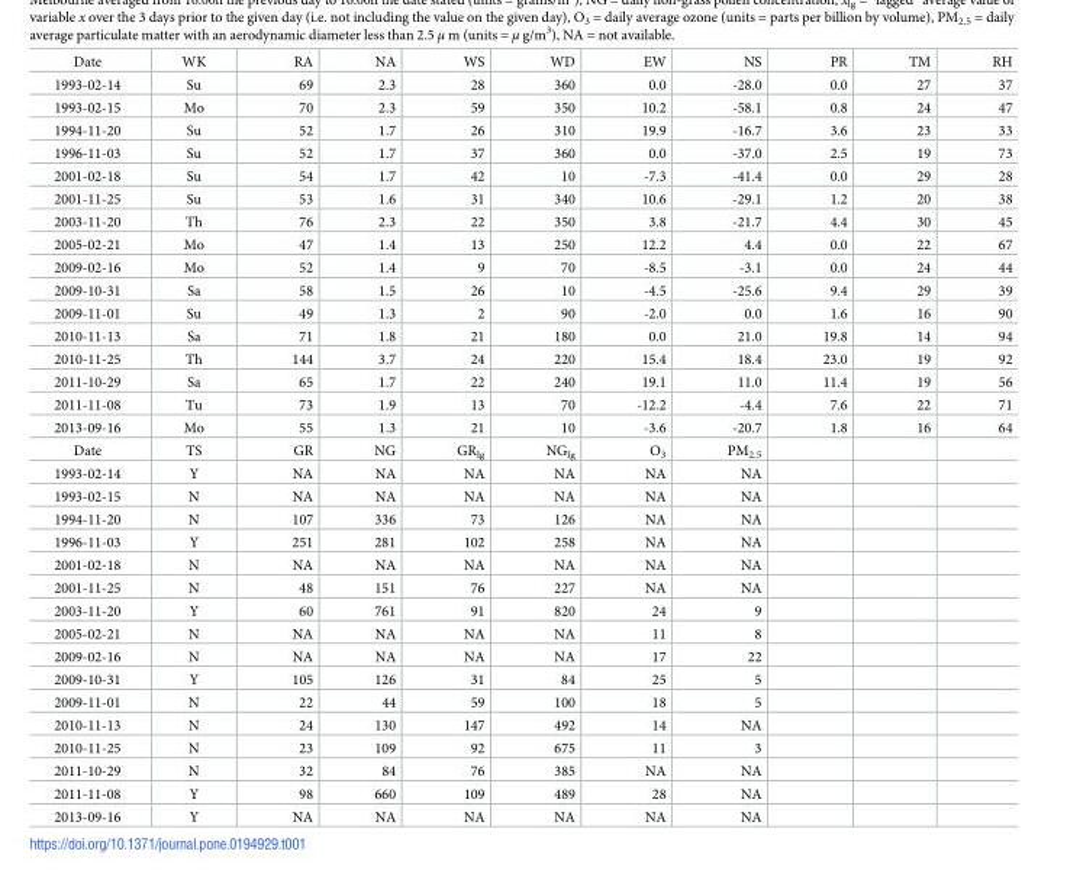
<table><tbody><tr><td>Date</td><td>WK</td><td>RA</td><td>NA</td><td>WS</td><td>WD</td><td>EW</td><td>NS</td><td>PR</td><td>TM</td><td>RH</td></tr><tr><td>1993-02-14</td><td>Su</td><td>69</td><td>2.3</td><td>28</td><td>360</td><td>0.0</td><td>-28.0</td><td>0.0</td><td>27</td><td>37</td></tr><tr><td>1993-02-15</td><td>Mo</td><td>70</td><td>2.3</td><td>59</td><td>350</td><td>10.2</td><td>-58.1</td><td>0.8</td><td>24</td><td>47</td></tr><tr><td>1994-11-20</td><td>Su</td><td>52</td><td>1.7</td><td>26</td><td>310</td><td>19.9</td><td>-16.7</td><td>3.6</td><td>23</td><td>33</td></tr><tr><td>1996-11-03</td><td>Su</td><td>52</td><td>1.7</td><td>37</td><td>360</td><td>0.0</td><td>-37.0</td><td>2.5</td><td>19</td><td>73</td></tr><tr><td>2001-02-18</td><td>Su</td><td>54</td><td>1.7</td><td>42</td><td>10</td><td>-7.3</td><td>-41.4</td><td>0.0</td><td>29</td><td>28</td></tr><tr><td>2001-11-25</td><td>Su</td><td>53</td><td>1.6</td><td>31</td><td>340</td><td>10.6</td><td>-29.1</td><td>1.2</td><td>20</td><td>38</td></tr><tr><td>2003-11-20</td><td>Th</td><td>76</td><td>2.3</td><td>22</td><td>350</td><td>3.8</td><td>-21.7</td><td>4.4</td><td>30</td><td>45</td></tr><tr><td>2005-02-21</td><td>Mo</td><td>47</td><td>1.4</td><td>13</td><td>250</td><td>12.2</td><td>4.4</td><td>0.0</td><td>22</td><td>67</td></tr><tr><td>2009-02-16</td><td>Mo</td><td>52</td><td>1.4</td><td>9</td><td>70</td><td>-8.5</td><td>-3.1</td><td>0.0</td><td>24</td><td>44</td></tr><tr><td>2009-10-31</td><td>Sa</td><td>58</td><td>1.5</td><td>26</td><td>10</td><td>-4.5</td><td>-25.6</td><td>9.4</td><td>29</td><td>39</td></tr><tr><td>2009-11-01</td><td>Su</td><td>49</td><td>1.3</td><td>2</td><td>90</td><td>-2.0</td><td>0.0</td><td>1.6</td><td>16</td><td>90</td></tr><tr><td>2010-11-13</td><td>Sa</td><td>71</td><td>1.8</td><td>21</td><td>180</td><td>0.0</td><td>21.0</td><td>19.8</td><td>14</td><td>94</td></tr><tr><td>2010-11-25</td><td>Th</td><td>144</td><td>3.7</td><td>24</td><td>220</td><td>15.4</td><td>18.4</td><td>23.0</td><td>19</td><td>92</td></tr><tr><td>2011-10-29</td><td>Sa</td><td>65</td><td>1.7</td><td>22</td><td>240</td><td>19.1</td><td>11.0</td><td>11.4</td><td>19</td><td>56</td></tr><tr><td>2011-11-08</td><td>Tu</td><td>73</td><td>1.9</td><td>13</td><td>70</td><td>-12.2</td><td>-4.4</td><td>7.6</td><td>22</td><td>71</td></tr><tr><td>2013-09-16</td><td>Mo</td><td>55</td><td>1.3</td><td>21</td><td>10</td><td>-3.6</td><td>-20.7</td><td>1.8</td><td>16</td><td>64</td></tr><tr><td>Date</td><td>TS</td><td>GR</td><td>NG</td><td>GR<sub>lg</sub></td><td>NG<sub>lg</sub></td><td>O<sub>3</sub></td><td>PM<sub>2.5</sub></td><td></td><td></td><td></td></tr><tr><td>1993-02-14</td><td>Y</td><td>NA</td><td>NA</td><td>NA</td><td>NA</td><td>NA</td><td>NA</td><td></td><td></td><td></td></tr><tr><td>1993-02-15</td><td>N</td><td>NA</td><td>NA</td><td>NA</td><td>NA</td><td>NA</td><td>NA</td><td></td><td></td><td></td></tr><tr><td>1994-11-20</td><td>N</td><td>107</td><td>336</td><td>73</td><td>126</td><td>NA</td><td>NA</td><td></td><td></td><td></td></tr><tr><td>1996-11-03</td><td>Y</td><td>251</td><td>281</td><td>102</td><td>258</td><td>NA</td><td>NA</td><td></td><td></td><td></td></tr><tr><td>2001-02-18</td><td>N</td><td>NA</td><td>NA</td><td>NA</td><td>NA</td><td>NA</td><td>NA</td><td></td><td></td><td></td></tr><tr><td>2001-11-25</td><td>N</td><td>48</td><td>151</td><td>76</td><td>227</td><td>NA</td><td>NA</td><td></td><td></td><td></td></tr><tr><td>2003-11-20</td><td>Y</td><td>60</td><td>761</td><td>91</td><td>820</td><td>24</td><td>9</td><td></td><td></td><td></td></tr><tr><td>2005-02-21</td><td>N</td><td>NA</td><td>NA</td><td>NA</td><td>NA</td><td>11</td><td>8</td><td></td><td></td><td></td></tr><tr><td>2009-02-16</td><td>N</td><td>NA</td><td>NA</td><td>NA</td><td>NA</td><td>17</td><td>22</td><td></td><td></td><td></td></tr><tr><td>2009-10-31</td><td>Y</td><td>105</td><td>126</td><td>31</td><td>84</td><td>25</td><td>5</td><td></td><td></td><td></td></tr><tr><td>2009-11-01</td><td>N</td><td>22</td><td>44</td><td>59</td><td>100</td><td>18</td><td>5</td><td></td><td></td><td></td></tr><tr><td>2010-11-13</td><td>N</td><td>24</td><td>130</td><td>147</td><td>492</td><td>14</td><td>NA</td><td></td><td></td><td></td></tr><tr><td>2010-11-25</td><td>N</td><td>23</td><td>109</td><td>92</td><td>675</td><td>11</td><td>3</td><td></td><td></td><td></td></tr><tr><td>2011-10-29</td><td>N</td><td>32</td><td>84</td><td>76</td><td>385</td><td>NA</td><td>NA</td><td></td><td></td><td></td></tr><tr><td>2011-11-08</td><td>Y</td><td>98</td><td>660</td><td>109</td><td>489</td><td>28</td><td>NA</td><td></td><td></td><td></td></tr><tr><td>2013-09-16</td><td>Y</td><td>NA</td><td>NA</td><td>NA</td><td>NA</td><td>NA</td><td>NA</td><td></td><td></td><td></td></tr></tbody></table>